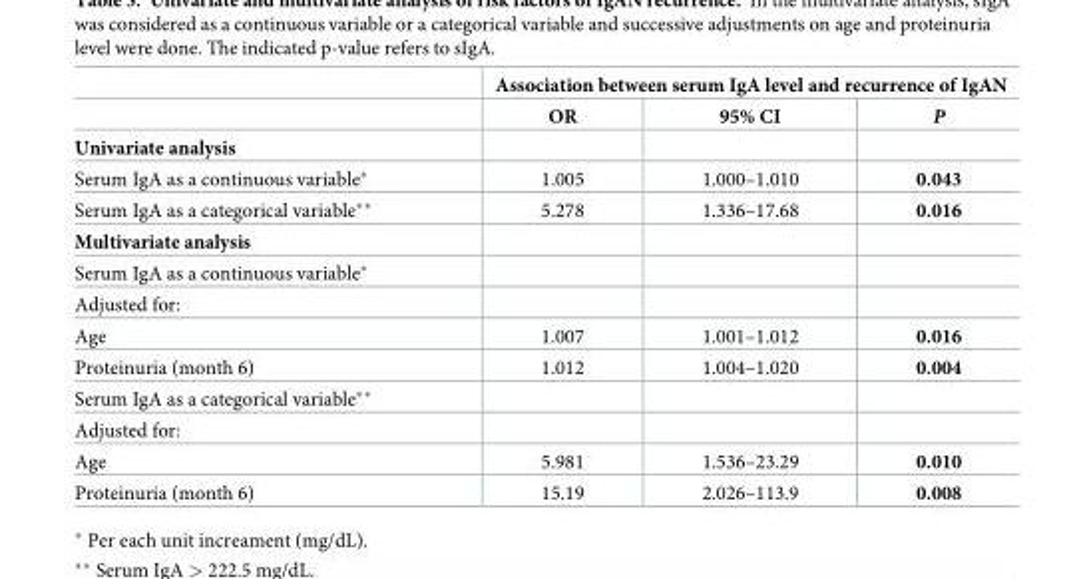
<table><thead><tr><td rowspan="2"></td><td colspan="3">Association between serum IgA level and recurrence of IgAN</td></tr><tr><td>OR</td><td>95% CI</td><td>P</td></tr></thead><tbody><tr><td colspan="4">Univariate analysis</td></tr><tr><td>Serum IgA as a continuous variable*</td><td>1.005</td><td>1.000–1.010</td><td>0.043</td></tr><tr><td>Serum IgA as a categorical variable**</td><td>5.278</td><td>1.336–17.68</td><td>0.016</td></tr><tr><td colspan="4">Multivariate analysis</td></tr><tr><td colspan="4">Serum IgA as a continuous variable*</td></tr><tr><td colspan="4">Adjusted for:</td></tr><tr><td>Age</td><td>1.007</td><td>1.001–1.012</td><td>0.016</td></tr><tr><td>Proteinuria (month 6)</td><td>1.012</td><td>1.004–1.020</td><td>0.004</td></tr><tr><td colspan="4">Serum IgA as a categorical variable**</td></tr><tr><td colspan="4">Adjusted for:</td></tr><tr><td>Age</td><td>5.981</td><td>1.536–23.29</td><td>0.010</td></tr><tr><td>Proteinuria (month 6)</td><td>15.19</td><td>2.026–113.9</td><td>0.008</td></tr></tbody></table>